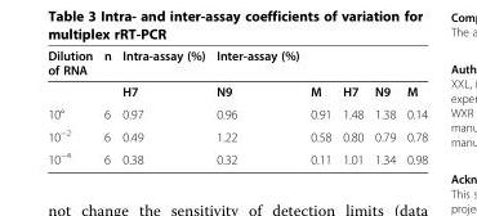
<table><thead><tr><td>Dilution of RNA</td><td>n</td><td>Intra-assay (%)</td><td>Inter-assay (%)</td><td></td><td></td><td></td><td></td></tr></thead><tbody><tr><td></td><td></td><td>H7</td><td>N9</td><td>M</td><td>H7</td><td>N9</td><td>M</td></tr><tr><td>10°</td><td>6</td><td>0.97</td><td>0.96</td><td>0.91</td><td>1.48</td><td>1.38</td><td>0.14</td></tr><tr><td>10<sup>−2</sup></td><td>6</td><td>0.49</td><td>1.22</td><td>0.58</td><td>0.80</td><td>0.79</td><td>0.78</td></tr><tr><td>10<sup>−4</sup></td><td>6</td><td>0.38</td><td>0.32</td><td>0.11</td><td>1.01</td><td>1.34</td><td>0.98</td></tr></tbody></table>